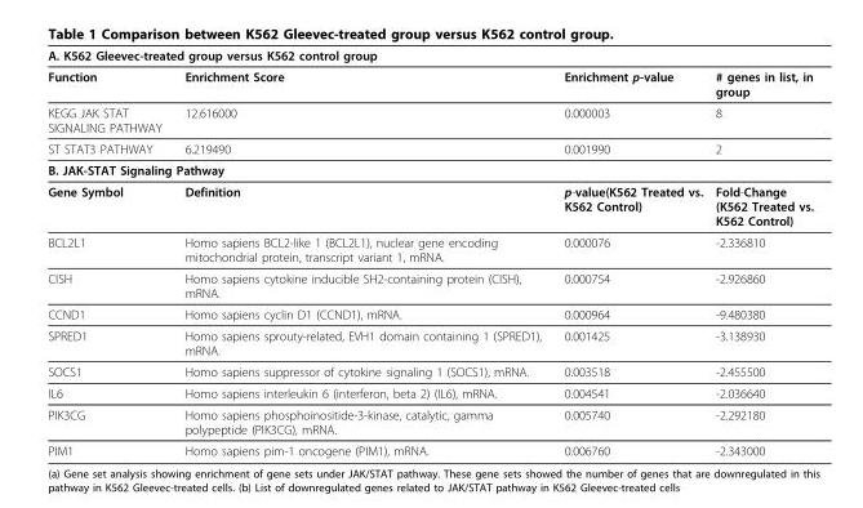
<table><thead><tr><td colspan="4">A. K562 Gleevec-treated group versus K562 control group</td></tr><tr><td>Function</td><td>Enrichment Score</td><td>Enrichment p-value</td><td># genes in list, in group</td></tr></thead><tbody><tr><td>KEGG JAK STAT SIGNALING PATHWAY</td><td>12.616000</td><td>0.000003</td><td>8</td></tr><tr><td>ST STAT3 PATHWAY</td><td>6.219490</td><td>0.001990</td><td>2</td></tr><tr><td colspan="4">B. JAK-STAT Signaling Pathway</td></tr><tr><td>Gene Symbol</td><td>Definition</td><td>p-value(K562 Treated vs. K562 Control)</td><td>Fold-Change (K562 Treated vs. K562 Control)</td></tr><tr><td>BCL2L1</td><td>Homo sapiens BCL2-like 1 (BCL2L1), nuclear gene encoding mitochondrial protein, transcript variant 1, mRNA.</td><td>0.000076</td><td>-2.336810</td></tr><tr><td>CISH</td><td>Homo sapiens cytokine inducible SH2-containing protein (CISH), mRNA.</td><td>0.000754</td><td>-2.926860</td></tr><tr><td>CCND1</td><td>Homo sapiens cyclin D1 (CCND1), mRNA.</td><td>0.000964</td><td>-9.480380</td></tr><tr><td>SPRED1</td><td>Homo sapiens sprouty-related, EVH1 domain containing 1 (SPRED1), mRNA.</td><td>0.001425</td><td>-3.138930</td></tr><tr><td>SOCS1</td><td>Homo sapiens suppressor of cytokine signaling 1 (SOCS1), mRNA.</td><td>0.003518</td><td>-2.455500</td></tr><tr><td>IL6</td><td>Homo sapiens interleukin 6 (interferon, beta 2) (IL6), mRNA.</td><td>0.004541</td><td>-2.036640</td></tr><tr><td>PIK3CG</td><td>Homo sapiens phosphoinositide-3-kinase, catalytic, gamma polypeptide (PIK3CG), mRNA.</td><td>0.005740</td><td>-2.292180</td></tr><tr><td>PIM1</td><td>Homo sapiens pim-1 oncogene (PIM1), mRNA.</td><td>0.006760</td><td>-2.343000</td></tr></tbody></table>